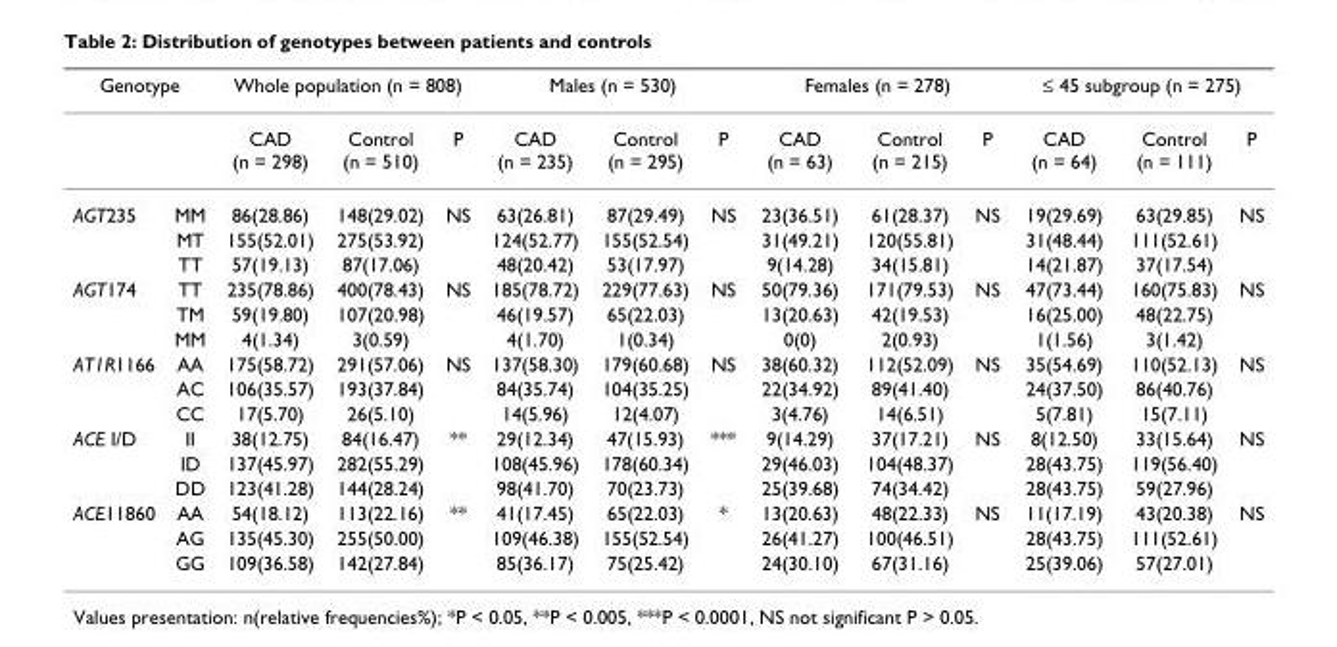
<table><thead><tr><td colspan="2">Genotype</td><td colspan="3">Whole population (n = 808)</td><td colspan="3">Males (n = 530)</td><td colspan="3">Females (n = 278)</td><td colspan="3">≤ 45 subgroup (n = 275)</td></tr><tr><td></td><td></td><td>CAD (n = 298)</td><td>Control (n = 510)</td><td>P</td><td>CAD (n = 235)</td><td>Control (n = 295)</td><td>P</td><td>CAD (n = 63)</td><td>Control (n = 215)</td><td>P</td><td>CAD (n = 64)</td><td>Control (n = 111)</td><td>P</td></tr></thead><tbody><tr><td rowspan="3">AGT235</td><td>MM</td><td>86(28.86)</td><td>148(29.02)</td><td>NS</td><td>63(26.81)</td><td>87(29.49)</td><td>NS</td><td>23(36.51)</td><td>61(28.37)</td><td>NS</td><td>19(29.69)</td><td>63(29.85)</td><td>NS</td></tr><tr><td>MT</td><td>155(52.01)</td><td>275(53.92)</td><td></td><td>124(52.77)</td><td>155(52.54)</td><td></td><td>31(49.21)</td><td>120(55.81)</td><td></td><td>31(48.44)</td><td>111(52.61)</td><td></td></tr><tr><td>TT</td><td>57(19.13)</td><td>87(17.06)</td><td></td><td>48(20.42)</td><td>53(17.97)</td><td></td><td>9(14.28)</td><td>34(15.81)</td><td></td><td>14(21.87)</td><td>37(17.54)</td><td></td></tr><tr><td rowspan="3">AGT174</td><td>TT</td><td>235(78.86)</td><td>400(78.43)</td><td>NS</td><td>185(78.72)</td><td>229(77.63)</td><td>NS</td><td>50(79.36)</td><td>171(79.53)</td><td>NS</td><td>47(73.44)</td><td>160(75.83)</td><td>NS</td></tr><tr><td>TM</td><td>59(19.80)</td><td>107(20.98)</td><td></td><td>46(19.57)</td><td>65(22.03)</td><td></td><td>13(20.63)</td><td>42(19.53)</td><td></td><td>16(25.00)</td><td>48(22.75)</td><td></td></tr><tr><td>MM</td><td>4(1.34)</td><td>3(0.59)</td><td></td><td>4(1.70)</td><td>1(0.34)</td><td></td><td>0(0)</td><td>2(0.93)</td><td></td><td>1(1.56)</td><td>3(1.42)</td><td></td></tr><tr><td rowspan="3">AT1R1166</td><td>AA</td><td>175(58.72)</td><td>291(57.06)</td><td>NS</td><td>137(58.30)</td><td>179(60.68)</td><td>NS</td><td>38(60.32)</td><td>112(52.09)</td><td>NS</td><td>35(54.69)</td><td>110(52.13)</td><td>NS</td></tr><tr><td>AC</td><td>106(35.57)</td><td>193(37.84)</td><td></td><td>84(35.74)</td><td>104(35.25)</td><td></td><td>22(34.92)</td><td>89(41.40)</td><td></td><td>24(37.50)</td><td>86(40.76)</td><td></td></tr><tr><td>CC</td><td>17(5.70)</td><td>26(5.10)</td><td></td><td>14(5.96)</td><td>12(4.07)</td><td></td><td>3(4.76)</td><td>14(6.51)</td><td></td><td>5(7.81)</td><td>15(7.11)</td><td></td></tr><tr><td rowspan="3">ACE I/D</td><td>II</td><td>38(12.75)</td><td>84(16.47)</td><td>**</td><td>29(12.34)</td><td>47(15.93)</td><td>***</td><td>9(14.29)</td><td>37(17.21)</td><td>NS</td><td>8(12.50)</td><td>33(15.64)</td><td>NS</td></tr><tr><td>ID</td><td>137(45.97)</td><td>282(55.29)</td><td></td><td>108(45.96)</td><td>178(60.34)</td><td></td><td>29(46.03)</td><td>104(48.37)</td><td></td><td>28(43.75)</td><td>119(56.40)</td><td></td></tr><tr><td>DD</td><td>123(41.28)</td><td>144(28.24)</td><td></td><td>98(41.70)</td><td>70(23.73)</td><td></td><td>25(39.68)</td><td>74(34.42)</td><td></td><td>28(43.75)</td><td>59(27.96)</td><td></td></tr><tr><td rowspan="3">ACE11860</td><td>AA</td><td>54(18.12)</td><td>113(22.16)</td><td>**</td><td>41(17.45)</td><td>65(22.03)</td><td>*</td><td>13(20.63)</td><td>48(22.33)</td><td>NS</td><td>11(17.19)</td><td>43(20.38)</td><td>NS</td></tr><tr><td>AG</td><td>135(45.30)</td><td>255(50.00)</td><td></td><td>109(46.38)</td><td>155(52.54)</td><td></td><td>26(41.27)</td><td>100(46.51)</td><td></td><td>28(43.75)</td><td>111(52.61)</td><td></td></tr><tr><td>GG</td><td>109(36.58)</td><td>142(27.84)</td><td></td><td>85(36.17)</td><td>75(25.42)</td><td></td><td>24(30.10)</td><td>67(31.16)</td><td></td><td>25(39.06)</td><td>57(27.01)</td><td></td></tr></tbody></table>